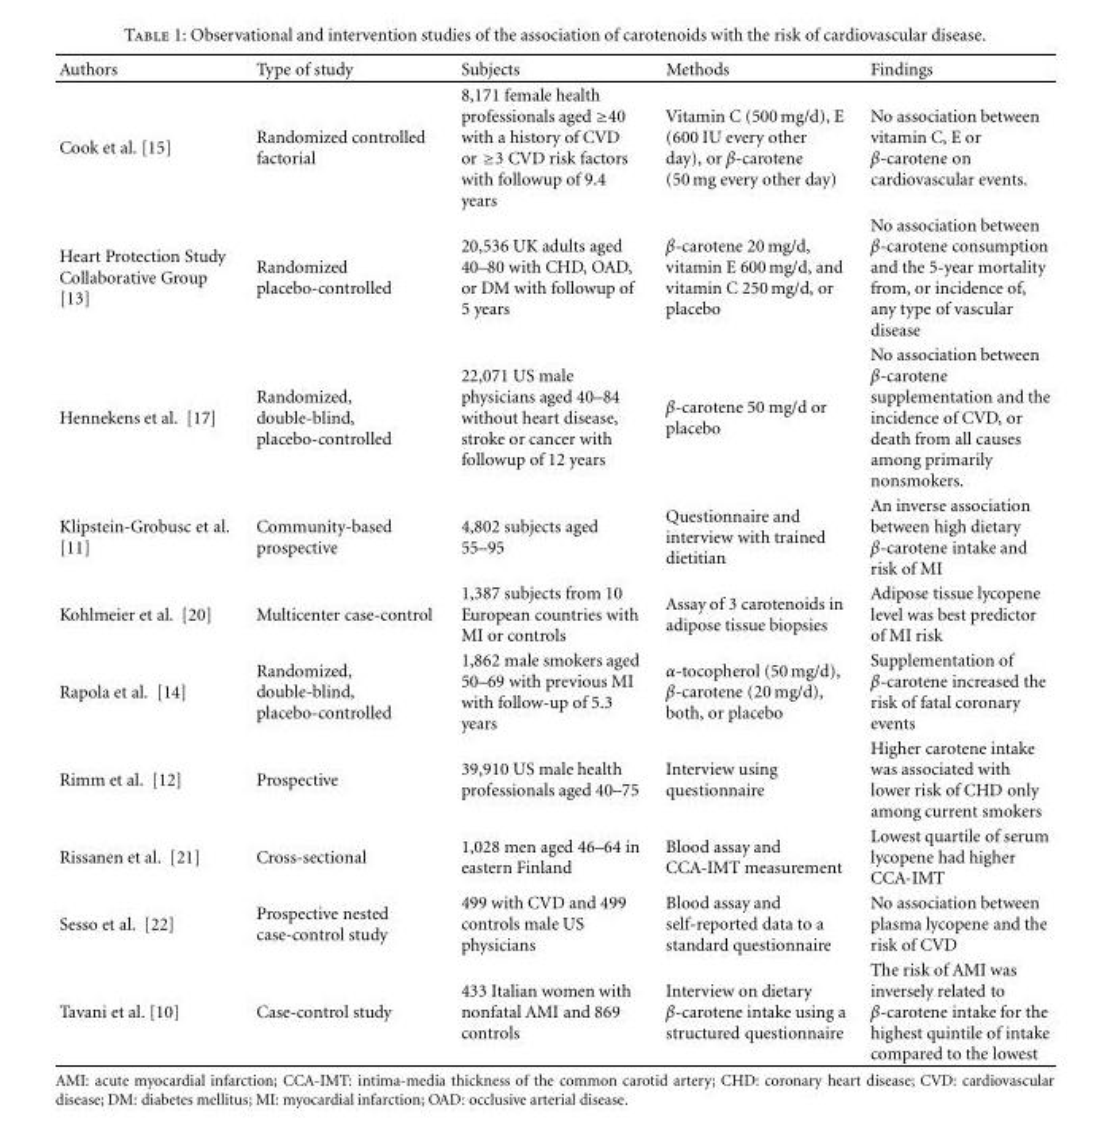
<table><thead><tr><td>Authors</td><td>Type of study</td><td>Subjects</td><td>Methods</td><td>Findings</td></tr></thead><tbody><tr><td>Cook et al. [15]</td><td>Randomized controlled factorial</td><td>8,171 female health professionals aged ≥40 with a history of CVD or ≥3 CVD risk factors with followup of 9.4 years</td><td>Vitamin C (500 mg/d), E (600 IU every other day), or β-carotene (50 mg every other day)</td><td>No association between vitamin C, E or β-carotene on cardiovascular events.</td></tr><tr><td>Heart Protection Study Collaborative Group [13]</td><td>Randomized placebo-controlled</td><td>20,536 UK adults aged 40–80 with CHD, OAD, or DM with followup of 5 years</td><td>β-carotene 20 mg/d, vitamin E 600 mg/d, and vitamin C 250 mg/d, or placebo</td><td>No association between β-carotene consumption and the 5-year mortality from, or incidence of, any type of vascular disease</td></tr><tr><td>Hennekens et al. [17]</td><td>Randomized, double-blind, placebo-controlled</td><td>22,071 US male physicians aged 40–84 without heart disease, stroke or cancer with followup of 12 years</td><td>β-carotene 50 mg/d or placebo</td><td>No association between β-carotene supplementation and the incidence of CVD, or death from all causes among primarily nonsmokers.</td></tr><tr><td>Klipstein-Grobusc et al. [11]</td><td>Community-based prospective</td><td>4,802 subjects aged 55–95</td><td>Questionnaire and interview with trained dietitian</td><td>An inverse association between high dietary β-carotene intake and risk of MI</td></tr><tr><td>Kohlmeier et al. [20]</td><td>Multicenter case-control</td><td>1,387 subjects from 10 European countries with MI or controls</td><td>Assay of 3 carotenoids in adipose tissue biopsies</td><td>Adipose tissue lycopene level was best predictor of MI risk</td></tr><tr><td>Rapola et al. [14]</td><td>Randomized, double-blind, placebo-controlled</td><td>1,862 male smokers aged 50–69 with previous MI with follow-up of 5.3 years</td><td>α-tocopherol (50 mg/d), β-carotene (20 mg/d), both, or placebo</td><td>Supplementation of β-carotene increased the risk of fatal coronary events</td></tr><tr><td>Rimm et al. [12]</td><td>Prospective</td><td>39,910 US male health professionals aged 40–75</td><td>Interview using questionnaire</td><td>Higher carotene intake was associated with lower risk of CHD only among current smokers</td></tr><tr><td>Rissanen et al. [21]</td><td>Cross-sectional</td><td>1,028 men aged 46–64 in eastern Finland</td><td>Blood assay and CCA-IMT measurement</td><td>Lowest quartile of serum lycopene had higher CCA-IMT</td></tr><tr><td>Sesso et al. [22]</td><td>Prospective nested case-control study</td><td>499 with CVD and 499 controls male US physicians</td><td>Blood assay and self-reported data to a standard questionnaire</td><td>No association between plasma lycopene and the risk of CVD</td></tr><tr><td>Tavani et al. [10]</td><td>Case-control study</td><td>433 Italian women with nonfatal AMI and 869 controls</td><td>Interview on dietary β-carotene intake using a structured questionnaire</td><td>The risk of AMI was inversely related to β-carotene intake for the highest quintile of intake compared to the lowest</td></tr></tbody></table>